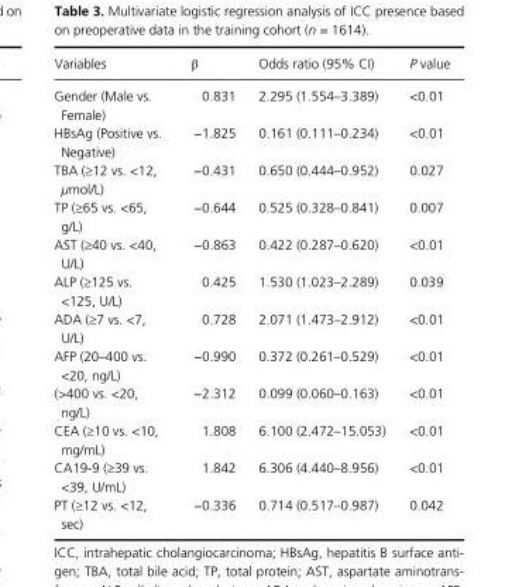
<table><thead><tr><td>Variables</td><td>β</td><td>Odds ratio (95% CI)</td><td>P value</td></tr></thead><tbody><tr><td>Gender (Male vs. Female)</td><td>0.831</td><td>2.295 (1.554–3.389)</td><td>&lt;0.01</td></tr><tr><td>HBsAg (Positive vs. Negative)</td><td>−1.825</td><td>0.161 (0.111–0.234)</td><td>&lt;0.01</td></tr><tr><td>TBA (≥12 vs. &lt;12, μmol/L)</td><td>−0.431</td><td>0.650 (0.444–0.952)</td><td>0.027</td></tr><tr><td>TP (≥65 vs. &lt;65, g/L)</td><td>−0.644</td><td>0.525 (0.328–0.841)</td><td>0.007</td></tr><tr><td>AST (≥40 vs. &lt;40, U/L)</td><td>−0.863</td><td>0.422 (0.287–0.620)</td><td>&lt;0.01</td></tr><tr><td>ALP (≥125 vs. &lt;125, U/L)</td><td>0.425</td><td>1.530 (1.023–2.289)</td><td>0.039</td></tr><tr><td>ADA (≥7 vs. &lt;7, U/L)</td><td>0.728</td><td>2.071 (1.473–2.912)</td><td>&lt;0.01</td></tr><tr><td>AFP (20–400 vs. &lt;20, ng/L)</td><td>−0.990</td><td>0.372 (0.261–0.529)</td><td>&lt;0.01</td></tr><tr><td>(&gt;400 vs. &lt;20, ng/L)</td><td>−2.312</td><td>0.099 (0.060–0.163)</td><td>&lt;0.01</td></tr><tr><td>CEA (≥10 vs. &lt;10, mg/mL)</td><td>1.808</td><td>6.100 (2.472–15.053)</td><td>&lt;0.01</td></tr><tr><td>CA19- 9 (≥39 vs. &lt;39, U/mL)</td><td>1.842</td><td>6.306 (4.440–8.956)</td><td>&lt;0.01</td></tr><tr><td>PT (≥12 vs. &lt;12, sec)</td><td>−0.336</td><td>0.714 (0.517–0.987)</td><td>0.042</td></tr></tbody></table>